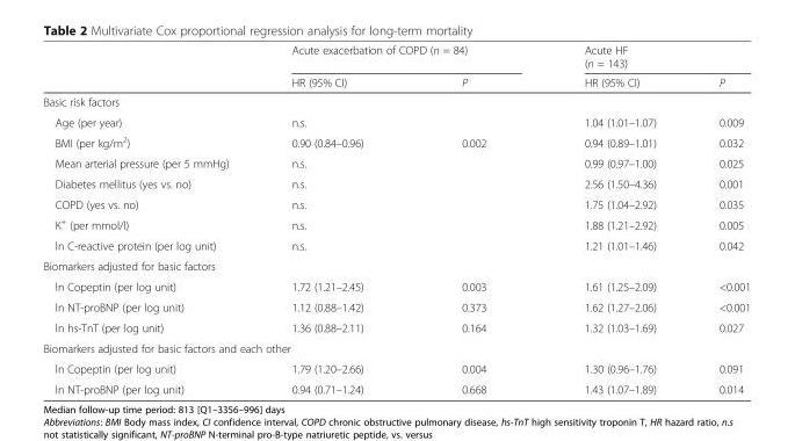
<table><thead><tr><td rowspan="2"></td><td colspan="2">Acute exacerbation of COPD (n = 84)</td><td colspan="2">Acute HF (n = 143)</td></tr><tr><td>HR (95% CI)</td><td>P</td><td>HR (95% CI)</td><td>P</td></tr></thead><tbody><tr><td colspan="5">Basic risk factors</td></tr><tr><td>Age (per year)</td><td>n.s.</td><td></td><td>1.04 (1.01–1.07)</td><td>0.009</td></tr><tr><td>BMI (per kg/m<sup>2</sup>)</td><td>0.90 (0.84–0.96)</td><td>0.002</td><td>0.94 (0.89–1.01)</td><td>0.032</td></tr><tr><td>Mean arterial pressure (per 5 mmHg)</td><td>n.s.</td><td></td><td>0.99 (0.97–1.00)</td><td>0.025</td></tr><tr><td>Diabetes mellitus (yes vs. no)</td><td>n.s.</td><td></td><td>2.56 (1.50–4.36)</td><td>0.001</td></tr><tr><td>COPD (yes vs. no)</td><td>n.s.</td><td></td><td>1.75 (1.04–2.92)</td><td>0.035</td></tr><tr><td>K<sup>+</sup> (per mmol/l)</td><td>n.s.</td><td></td><td>1.88 (1.21–2.92)</td><td>0.005</td></tr><tr><td>ln C-reactive protein (per log unit)</td><td>n.s.</td><td></td><td>1.21 (1.01–1.46)</td><td>0.042</td></tr><tr><td colspan="5">Biomarkers adjusted for basic factors</td></tr><tr><td>ln Copeptin (per log unit)</td><td>1.72 (1.21–2.45)</td><td>0.003</td><td>1.61 (1.25–2.09)</td><td>&lt;0.001</td></tr><tr><td>ln NT-proBNP (per log unit)</td><td>1.12 (0.88–1.42)</td><td>0.373</td><td>1.62 (1.27–2.06)</td><td>&lt;0.001</td></tr><tr><td>ln hs-TnT (per log unit)</td><td>1.36 (0.88–2.11)</td><td>0.164</td><td>1.32 (1.03–1.69)</td><td>0.027</td></tr><tr><td colspan="5">Biomarkers adjusted for basic factors and each other</td></tr><tr><td>ln Copeptin (per log unit)</td><td>1.79 (1.20–2.66)</td><td>0.004</td><td>1.30 (0.96–1.76)</td><td>0.091</td></tr><tr><td>ln NT-proBNP (per log unit)</td><td>0.94 (0.71–1.24)</td><td>0.668</td><td>1.43 (1.07–1.89)</td><td>0.014</td></tr></tbody></table>